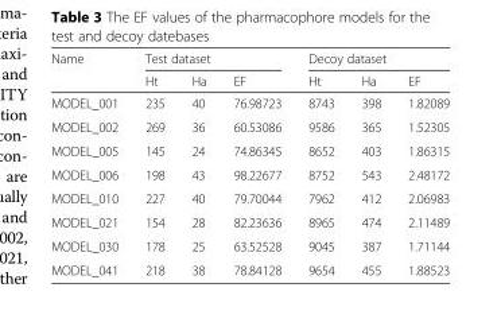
<table><thead><tr><td rowspan="2">Name</td><td colspan="3">Test dataset</td><td colspan="3">Decoy dataset</td></tr><tr><td>Ht</td><td>Ha</td><td>EF</td><td>Ht</td><td>Ha</td><td>EF</td></tr></thead><tbody><tr><td>MODEL_001</td><td>235</td><td>40</td><td>76.98723</td><td>8743</td><td>398</td><td>1.82089</td></tr><tr><td>MODEL_002</td><td>269</td><td>36</td><td>60.53086</td><td>9586</td><td>365</td><td>1.52305</td></tr><tr><td>MODEL_005</td><td>145</td><td>24</td><td>74.86345</td><td>8652</td><td>403</td><td>1.86315</td></tr><tr><td>MODEL_006</td><td>198</td><td>43</td><td>98.22677</td><td>8752</td><td>543</td><td>2.48172</td></tr><tr><td>MODEL_010</td><td>227</td><td>40</td><td>79.70044</td><td>7962</td><td>412</td><td>2.06983</td></tr><tr><td>MODEL_021</td><td>154</td><td>28</td><td>82.23636</td><td>8965</td><td>474</td><td>2.11489</td></tr><tr><td>MODEL_030</td><td>178</td><td>25</td><td>63.52528</td><td>9045</td><td>387</td><td>1.71144</td></tr><tr><td>MODEL_041</td><td>218</td><td>38</td><td>78.84128</td><td>9654</td><td>455</td><td>1.88523</td></tr></tbody></table>